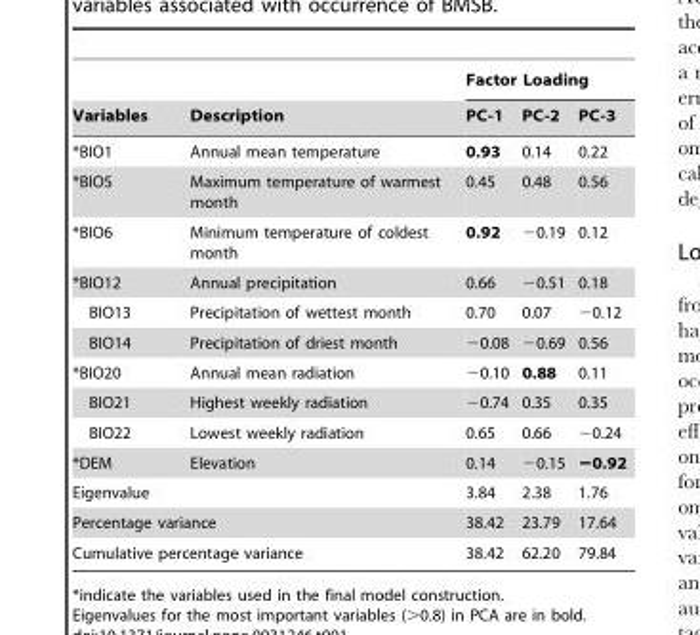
<table><thead><tr><td rowspan="2">Variables</td><td rowspan="2">Description</td><td colspan="3">Factor Loading</td></tr><tr><td>PC-1</td><td>PC-2</td><td>PC-3</td></tr></thead><tbody><tr><td>*BIO1</td><td>Annual mean temperature</td><td>0.93</td><td>0.14</td><td>0.22</td></tr><tr><td>*BIO5</td><td>Maximum temperature of warmest month</td><td>0.45</td><td>0.48</td><td>0.56</td></tr><tr><td>*BIO6</td><td>Minimum temperature of coldest month</td><td>0.92</td><td>−0.19</td><td>0.12</td></tr><tr><td>*BIO12</td><td>Annual precipitation</td><td>0.66</td><td>−0.51</td><td>0.18</td></tr><tr><td>BIO13</td><td>Precipitation of wettest month</td><td>0.70</td><td>0.07</td><td>−0.12</td></tr><tr><td>BIO14</td><td>Precipitation of driest month</td><td>−0.08</td><td>−0.69</td><td>0.56</td></tr><tr><td>*BIO20</td><td>Annual mean radiation</td><td>−0.10</td><td>0.88</td><td>0.11</td></tr><tr><td>BIO21</td><td>Highest weekly radiation</td><td>−0.74</td><td>0.35</td><td>0.35</td></tr><tr><td>BIO22</td><td>Lowest weekly radiation</td><td>0.65</td><td>0.66</td><td>−0.24</td></tr><tr><td>*DEM</td><td>Elevation</td><td>0.14</td><td>−0.15</td><td>−0.92</td></tr><tr><td colspan="2">Eigenvalue</td><td>3.84</td><td>2.38</td><td>1.76</td></tr><tr><td colspan="2">Percentage variance</td><td>38.42</td><td>23.79</td><td>17.64</td></tr><tr><td colspan="2">Cumulative percentage variance</td><td>38.42</td><td>62.20</td><td>79.84</td></tr></tbody></table>